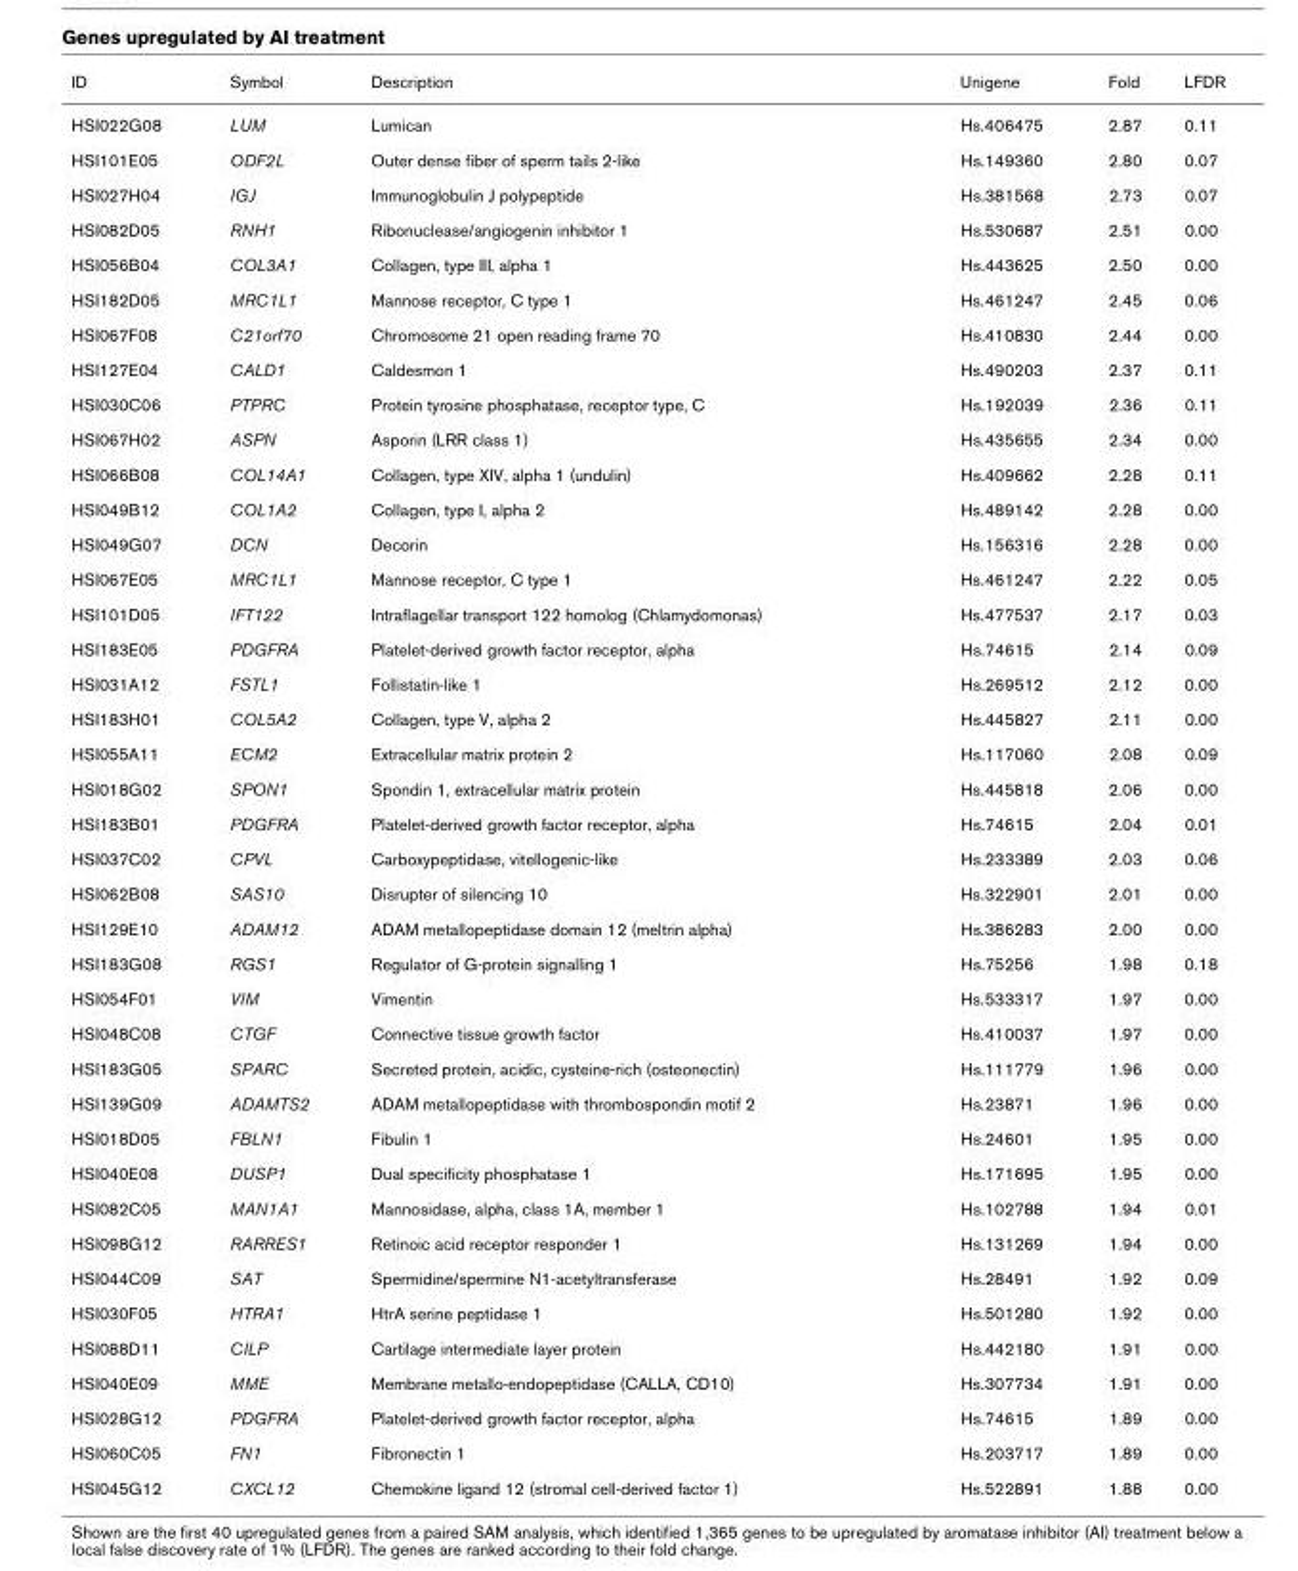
<table><thead><tr><td>ID</td><td>Symbol</td><td>Description</td><td>Unigene</td><td>Fold</td><td>LFDR</td></tr></thead><tbody><tr><td>HSI022G08</td><td>LUM</td><td>Lumican</td><td>Hs.406475</td><td>2.87</td><td>0.11</td></tr><tr><td>HSI101E05</td><td>ODF2L</td><td>Outer dense fiber of sperm tails 2-like</td><td>Hs.149360</td><td>2.80</td><td>0.07</td></tr><tr><td>HSI027H04</td><td>IGJ</td><td>Immunoglobulin J polypeptide</td><td>Hs.381568</td><td>2.73</td><td>0.07</td></tr><tr><td>HSI082D05</td><td>RNH1</td><td>Ribonuclease/angiogenin inhibitor 1</td><td>Hs.530687</td><td>2.51</td><td>0.00</td></tr><tr><td>HSI056B04</td><td>COL3A1</td><td>Collagen, type III, alpha 1</td><td>Hs.443625</td><td>2.50</td><td>0.00</td></tr><tr><td>HSI182D05</td><td>MRC1L1</td><td>Mannose receptor, C type 1</td><td>Hs.461247</td><td>2.45</td><td>0.06</td></tr><tr><td>HSI067F08</td><td>C21orf70</td><td>Chromosome 21 open reading frame 70</td><td>Hs.410830</td><td>2.44</td><td>0.00</td></tr><tr><td>HSI127E04</td><td>CALD1</td><td>Caldesmon 1</td><td>Hs.490203</td><td>2.37</td><td>0.11</td></tr><tr><td>HSI030C06</td><td>PTPRC</td><td>Protein tyrosine phosphatase, receptor type, C</td><td>Hs.192039</td><td>2.36</td><td>0.11</td></tr><tr><td>HSI067H02</td><td>ASPN</td><td>Asporin (LRR class 1)</td><td>Hs.435655</td><td>2.34</td><td>0.00</td></tr><tr><td>HSI066B08</td><td>COL14A1</td><td>Collagen, type XIV, alpha 1 (undulin)</td><td>Hs.409662</td><td>2.28</td><td>0.11</td></tr><tr><td>HSI049B12</td><td>COL1A2</td><td>Collagen, type I, alpha 2</td><td>Hs.489142</td><td>2.28</td><td>0.00</td></tr><tr><td>HSI049G07</td><td>DCN</td><td>Decorin</td><td>Hs.156316</td><td>2.28</td><td>0.00</td></tr><tr><td>HSI067E05</td><td>MRC1L1</td><td>Mannose receptor, C type 1</td><td>Hs.461247</td><td>2.22</td><td>0.05</td></tr><tr><td>HSI101D05</td><td>IFT122</td><td>Intraflagellar transport 122 homolog (Chlamydomonas)</td><td>Hs.477537</td><td>2.17</td><td>0.03</td></tr><tr><td>HSI183E05</td><td>PDGFRA</td><td>Platelet-derived growth factor receptor, alpha</td><td>Hs.74615</td><td>2.14</td><td>0.09</td></tr><tr><td>HSI031A12</td><td>FSTL1</td><td>Follistatin-like 1</td><td>Hs.269512</td><td>2.12</td><td>0.00</td></tr><tr><td>HSI183H01</td><td>COL5A2</td><td>Collagen, type V, alpha 2</td><td>Hs.445827</td><td>2.11</td><td>0.00</td></tr><tr><td>HSI055A11</td><td>ECM2</td><td>Extracellular matrix protein 2</td><td>Hs.117060</td><td>2.08</td><td>0.09</td></tr><tr><td>HSI018G02</td><td>SPON1</td><td>Spondin 1, extracellular matrix protein</td><td>Hs.445818</td><td>2.06</td><td>0.00</td></tr><tr><td>HSI183B01</td><td>PDGFRA</td><td>Platelet-derived growth factor receptor, alpha</td><td>Hs.74615</td><td>2.04</td><td>0.01</td></tr><tr><td>HSI037C02</td><td>CPVL</td><td>Carboxypeptidase, vitellogenic-like</td><td>Hs.233389</td><td>2.03</td><td>0.06</td></tr><tr><td>HSI062B08</td><td>SAS10</td><td>Disrupter of silencing 10</td><td>Hs.322901</td><td>2.01</td><td>0.00</td></tr><tr><td>HSI129E10</td><td>ADAM12</td><td>ADAM metallopeptidase domain 12 (meltrin alpha)</td><td>Hs.386283</td><td>2.00</td><td>0.00</td></tr><tr><td>HSI183G08</td><td>RGS1</td><td>Regulator of G-protein signalling 1</td><td>Hs.75256</td><td>1.98</td><td>0.18</td></tr><tr><td>HSI054F01</td><td>VIM</td><td>Vimentin</td><td>Hs.533317</td><td>1.97</td><td>0.00</td></tr><tr><td>HSI048C08</td><td>CTGF</td><td>Connective tissue growth factor</td><td>Hs.410037</td><td>1.97</td><td>0.00</td></tr><tr><td>HSI183G05</td><td>SPARC</td><td>Secreted protein, acidic, cysteine-rich (osteonectin)</td><td>Hs.111779</td><td>1.96</td><td>0.00</td></tr><tr><td>HSI139G09</td><td>ADAMTS2</td><td>ADAM metallopeptidase with thrombospondin motif 2</td><td>Hs.23871</td><td>1.96</td><td>0.00</td></tr><tr><td>HSI018D05</td><td>FBLN1</td><td>Fibulin 1</td><td>Hs.24601</td><td>1.95</td><td>0.00</td></tr><tr><td>HSI040E08</td><td>DUSP1</td><td>Dual specificity phosphatase 1</td><td>Hs.171695</td><td>1.95</td><td>0.00</td></tr><tr><td>HSI082C05</td><td>MAN1A1</td><td>Mannosidase, alpha, class 1A, member 1</td><td>Hs.102788</td><td>1.94</td><td>0.01</td></tr><tr><td>HSI098G12</td><td>RARRES1</td><td>Retinoic acid receptor responder 1</td><td>Hs.131269</td><td>1.94</td><td>0.00</td></tr><tr><td>HSI044C09</td><td>SAT</td><td>Spermidine/spermine N1-acetyltransferase</td><td>Hs.28491</td><td>1.92</td><td>0.09</td></tr><tr><td>HSI030F05</td><td>HTRA1</td><td>HtrA serine peptidase 1</td><td>Hs.501280</td><td>1.92</td><td>0.00</td></tr><tr><td>HSI088D11</td><td>CILP</td><td>Cartilage intermediate layer protein</td><td>Hs.442180</td><td>1.91</td><td>0.00</td></tr><tr><td>HSI040E09</td><td>MME</td><td>Membrane metallo-endopeptidase (CALLA, CD10)</td><td>Hs.307734</td><td>1.91</td><td>0.00</td></tr><tr><td>HSI028G12</td><td>PDGFRA</td><td>Platelet-derived growth factor receptor, alpha</td><td>Hs.74615</td><td>1.89</td><td>0.00</td></tr><tr><td>HSI060C05</td><td>FN1</td><td>Fibronectin 1</td><td>Hs.203717</td><td>1.89</td><td>0.00</td></tr><tr><td>HSI045G12</td><td>CXCL12</td><td>Chemokine ligand 12 (stromal cell-derived factor 1)</td><td>Hs.522891</td><td>1.88</td><td>0.00</td></tr></tbody></table>